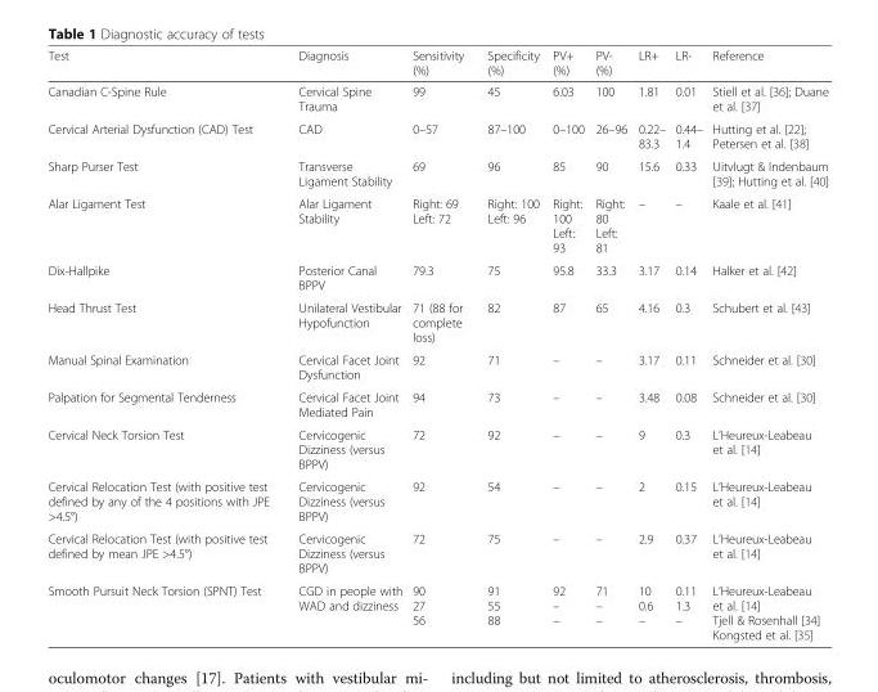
<table><thead><tr><td>Test</td><td>Diagnosis</td><td>Sensitivity (%)</td><td>Specificity (%)</td><td>PV+ (%)</td><td>PV- (%)</td><td>LR+</td><td>LR-</td><td>Reference</td></tr></thead><tbody><tr><td>Canadian C-Spine Rule</td><td>Cervical Spine Trauma</td><td>99</td><td>45</td><td>6.03</td><td>100</td><td>1.81</td><td>0.01</td><td>Stiell et al. [36]; Duane et al. [37]</td></tr><tr><td>Cervical Arterial Dysfunction (CAD) Test</td><td>CAD</td><td>0–57</td><td>87–100</td><td>0–100</td><td>26–96</td><td>0.22– 83.3</td><td>0.44– 1.4</td><td>Hutting et al. [22]; Petersen et al. [38]</td></tr><tr><td>Sharp Purser Test</td><td>Transverse Ligament Stability</td><td>69</td><td>96</td><td>85</td><td>90</td><td>15.6</td><td>0.33</td><td>Uitvlugt &amp; Indenbaum [39]; Hutting et al. [40]</td></tr><tr><td>Alar Ligament Test</td><td>Alar Ligament Stability</td><td>Right: 69 Left: 72</td><td>Right: 100 Left: 96</td><td>Right: 100 Left: 93</td><td>Right: 80 Left: 81</td><td>–</td><td>–</td><td>Kaale et al. [41]</td></tr><tr><td>Dix-Hallpike</td><td>Posterior Canal BPPV</td><td>79.3</td><td>75</td><td>95.8</td><td>33.3</td><td>3.17</td><td>0.14</td><td>Halker et al. [42]</td></tr><tr><td>Head Thrust Test</td><td>Unilateral Vestibular Hypofunction</td><td>71 (88 for complete loss)</td><td>82</td><td>87</td><td>65</td><td>4.16</td><td>0.3</td><td>Schubert et al. [43]</td></tr><tr><td>Manual Spinal Examination</td><td>Cervical Facet Joint Dysfunction</td><td>92</td><td>71</td><td>–</td><td>–</td><td>3.17</td><td>0.11</td><td>Schneider et al. [30]</td></tr><tr><td>Palpation for Segmental Tenderness</td><td>Cervical Facet Joint Mediated Pain</td><td>94</td><td>73</td><td>–</td><td>–</td><td>3.48</td><td>0.08</td><td>Schneider et al. [30]</td></tr><tr><td>Cervical Neck Torsion Test</td><td>Cervicogenic Dizziness (versus BPPV)</td><td>72</td><td>92</td><td>–</td><td>–</td><td>9</td><td>0.3</td><td>L’Heureux-Leabeau et al. [14]</td></tr><tr><td>Cervical Relocation Test (with positive test defined by any of the 4 positions with JPE &gt;4.5°)</td><td>Cervicogenic Dizziness (versus BPPV)</td><td>92</td><td>54</td><td>–</td><td>–</td><td>2</td><td>0.15</td><td>L’Heureux-Leabeau et al. [14]</td></tr><tr><td>Cervical Relocation Test (with positive test defined by mean JPE &gt;4.5°)</td><td>Cervicogenic Dizziness (versus BPPV)</td><td>72</td><td>75</td><td>–</td><td>–</td><td>2.9</td><td>0.37</td><td>L’Heureux-Leabeau et al. [14]</td></tr><tr><td>Smooth Pursuit Neck Torsion (SPNT) Test</td><td>CGD in people with WAD and dizziness</td><td>90 27 56</td><td>91 55 88</td><td>92 – –</td><td>71 – –</td><td>10 0.6 –</td><td>0.11 1.3 –</td><td>L’Heureux-Leabeau et al. [14] Tjell &amp; Rosenhall [34] Kongsted et al. [35]</td></tr></tbody></table>